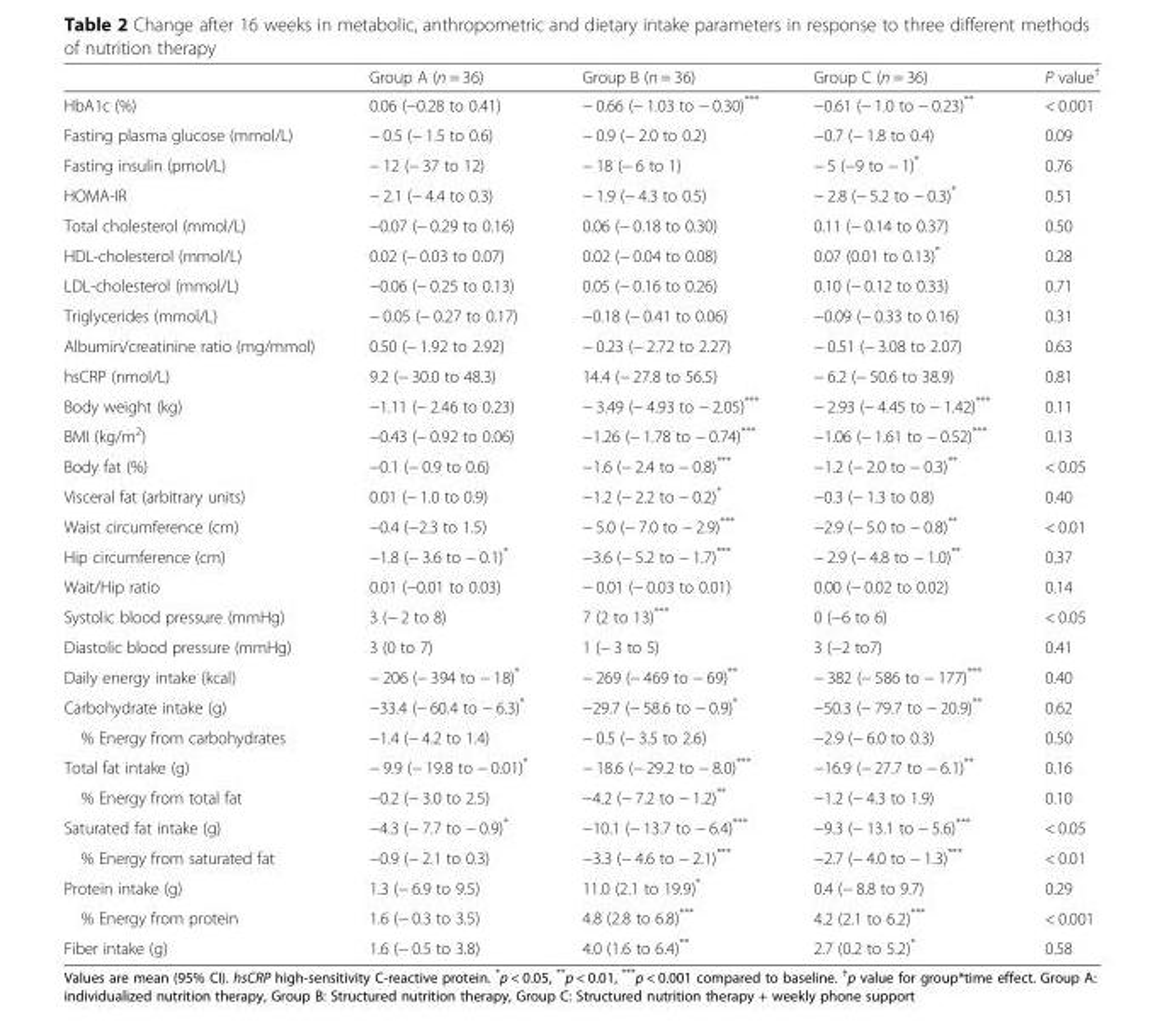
<table><thead><tr><td></td><td>Group A (n = 36)</td><td>Group B (n = 36)</td><td>Group C (n = 36)</td><td>P value<sup>†</sup></td></tr></thead><tbody><tr><td>HbA1c (%)</td><td>0.06 (−0.28 to 0.41)</td><td>− 0.66 (− 1.03 to − 0.30)***</td><td>−0.61 (− 1.0 to − 0.23)**</td><td>&lt; 0.001</td></tr><tr><td>Fasting plasma glucose (mmol/L)</td><td>− 0.5 (− 1.5 to 0.6)</td><td>− 0.9 (− 2.0 to 0.2)</td><td>−0.7 (− 1.8 to 0.4)</td><td>0.09</td></tr><tr><td>Fasting insulin (pmol/L)</td><td>− 12 (− 37 to 12)</td><td>− 18 (− 6 to 1)</td><td>− 5 (−9 to − 1)*</td><td>0.76</td></tr><tr><td>HOMA-IR</td><td>− 2.1 (− 4.4 to 0.3)</td><td>− 1.9 (− 4.3 to 0.5)</td><td>− 2.8 (− 5.2 to − 0.3)*</td><td>0.51</td></tr><tr><td>Total cholesterol (mmol/L)</td><td>−0.07 (− 0.29 to 0.16)</td><td>0.06 (− 0.18 to 0.30)</td><td>0.11 (− 0.14 to 0.37)</td><td>0.50</td></tr><tr><td>HDL-cholesterol (mmol/L)</td><td>0.02 (− 0.03 to 0.07)</td><td>0.02 (− 0.04 to 0.08)</td><td>0.07 (0.01 to 0.13)*</td><td>0.28</td></tr><tr><td>LDL-cholesterol (mmol/L)</td><td>−0.06 (− 0.25 to 0.13)</td><td>0.05 (− 0.16 to 0.26)</td><td>0.10 (− 0.12 to 0.33)</td><td>0.71</td></tr><tr><td>Triglycerides (mmol/L)</td><td>− 0.05 (− 0.27 to 0.17)</td><td>−0.18 (− 0.41 to 0.06)</td><td>−0.09 (− 0.33 to 0.16)</td><td>0.31</td></tr><tr><td>Albumin/creatinine ratio (mg/mmol)</td><td>0.50 (− 1.92 to 2.92)</td><td>− 0.23 (− 2.72 to 2.27)</td><td>− 0.51 (− 3.08 to 2.07)</td><td>0.63</td></tr><tr><td>hsCRP (nmol/L)</td><td>9.2 (− 30.0 to 48.3)</td><td>14.4 (− 27.8 to 56.5)</td><td>− 6.2 (− 50.6 to 38.9)</td><td>0.81</td></tr><tr><td>Body weight (kg)</td><td>−1.11 (− 2.46 to 0.23)</td><td>− 3.49 (− 4.93 to − 2.05)***</td><td>− 2.93 (− 4.45 to − 1.42)***</td><td>0.11</td></tr><tr><td>BMI (kg/m<sup>2</sup>)</td><td>−0.43 (− 0.92 to 0.06)</td><td>−1.26 (− 1.78 to − 0.74)***</td><td>−1.06 (− 1.61 to − 0.52)***</td><td>0.13</td></tr><tr><td>Body fat (%)</td><td>−0.1 (− 0.9 to 0.6)</td><td>−1.6 (− 2.4 to − 0.8)***</td><td>−1.2 (− 2.0 to − 0.3)**</td><td>&lt; 0.05</td></tr><tr><td>Visceral fat (arbitrary units)</td><td>0.01 (− 1.0 to 0.9)</td><td>−1.2 (− 2.2 to − 0.2)*</td><td>−0.3 (− 1.3 to 0.8)</td><td>0.40</td></tr><tr><td>Waist circumference (cm)</td><td>−0.4 (−2.3 to 1.5)</td><td>− 5.0 (− 7.0 to − 2.9)***</td><td>−2.9 (− 5.0 to − 0.8)**</td><td>&lt; 0.01</td></tr><tr><td>Hip circumference (cm)</td><td>−1.8 (− 3.6 to − 0.1)*</td><td>−3.6 (− 5.2 to − 1.7)***</td><td>− 2.9 (− 4.8 to − 1.0)**</td><td>0.37</td></tr><tr><td>Wait/Hip ratio</td><td>0.01 (−0.01 to 0.03)</td><td>− 0.01 (− 0.03 to 0.01)</td><td>0.00 (− 0.02 to 0.02)</td><td>0.14</td></tr><tr><td>Systolic blood pressure (mmHg)</td><td>3 (− 2 to 8)</td><td>7 (2 to 13)***</td><td>0 (−6 to 6)</td><td>&lt; 0.05</td></tr><tr><td>Diastolic blood pressure (mmHg)</td><td>3 (0 to 7)</td><td>1 (− 3 to 5)</td><td>3 (−2 to7)</td><td>0.41</td></tr><tr><td>Daily energy intake (kcal)</td><td>− 206 (− 394 to − 18)*</td><td>− 269 (− 469 to − 69)**</td><td>− 382 (− 586 to − 177)***</td><td>0.40</td></tr><tr><td>Carbohydrate intake (g)</td><td>−33.4 (− 60.4 to − 6.3)*</td><td>−29.7 (− 58.6 to − 0.9)*</td><td>−50.3 (− 79.7 to − 20.9)**</td><td>0.62</td></tr><tr><td>% Energy from carbohydrates</td><td>−1.4 (− 4.2 to 1.4)</td><td>− 0.5 (− 3.5 to 2.6)</td><td>−2.9 (− 6.0 to 0.3)</td><td>0.50</td></tr><tr><td>Total fat intake (g)</td><td>− 9.9 (− 19.8 to − 0.01)*</td><td>− 18.6 (− 29.2 to − 8.0)***</td><td>−16.9 (− 27.7 to − 6.1)**</td><td>0.16</td></tr><tr><td>% Energy from total fat</td><td>−0.2 (− 3.0 to 2.5)</td><td>−4.2 (− 7.2 to − 1.2)**</td><td>−1.2 (− 4.3 to 1.9)</td><td>0.10</td></tr><tr><td>Saturated fat intake (g)</td><td>−4.3 (− 7.7 to − 0.9)*</td><td>−10.1 (− 13.7 to − 6.4)***</td><td>−9.3 (− 13.1 to − 5.6)***</td><td>&lt; 0.05</td></tr><tr><td>% Energy from saturated fat</td><td>−0.9 (− 2.1 to 0.3)</td><td>−3.3 (− 4.6 to − 2.1)***</td><td>−2.7 (− 4.0 to − 1.3)***</td><td>&lt; 0.01</td></tr><tr><td>Protein intake (g)</td><td>1.3 (− 6.9 to 9.5)</td><td>11.0 (2.1 to 19.9)*</td><td>0.4 (− 8.8 to 9.7)</td><td>0.29</td></tr><tr><td>% Energy from protein</td><td>1.6 (− 0.3 to 3.5)</td><td>4.8 (2.8 to 6.8)***</td><td>4.2 (2.1 to 6.2)***</td><td>&lt; 0.001</td></tr><tr><td>Fiber intake (g)</td><td>1.6 (− 0.5 to 3.8)</td><td>4.0 (1.6 to 6.4)**</td><td>2.7 (0.2 to 5.2)*</td><td>0.58</td></tr></tbody></table>